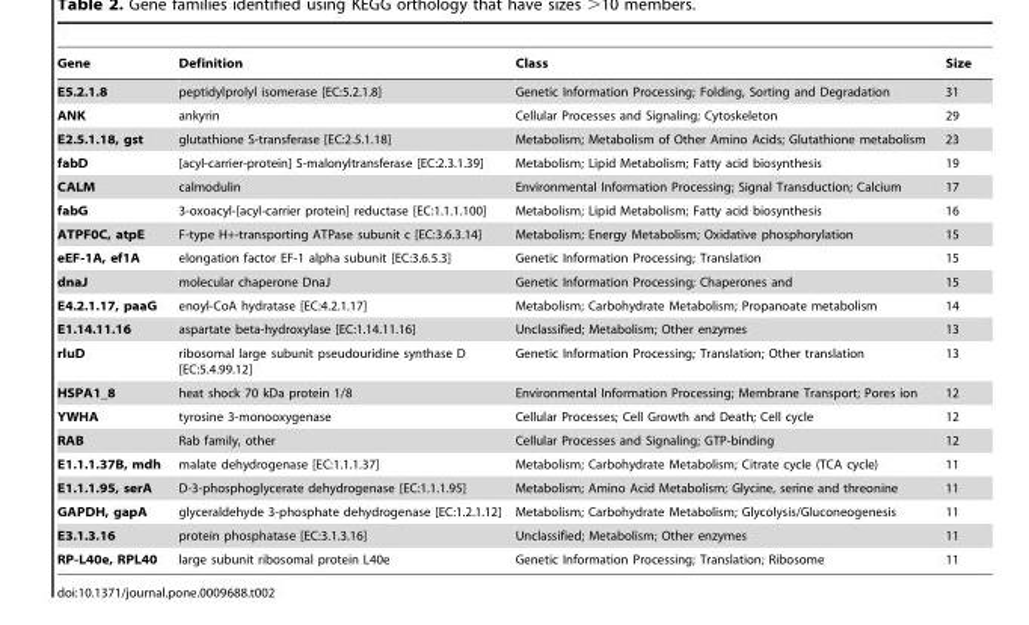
<table><thead><tr><td>Gene</td><td>Definition</td><td>Class</td><td>Size</td></tr></thead><tbody><tr><td>E5.2.1.8</td><td>peptidylprolyl isomerase [EC:5.2.1.8]</td><td>Genetic Information Processing; Folding, Sorting and Degradation</td><td>31</td></tr><tr><td>ANK</td><td>ankyrin</td><td>Cellular Processes and Signaling; Cytoskeleton</td><td>29</td></tr><tr><td>E2.5.1.18, gst</td><td>glutathione S-transferase [EC:2.5.1.18]</td><td>Metabolism; Metabolism of Other Amino Acids; Glutathione metabolism</td><td>23</td></tr><tr><td>fabD</td><td>[acyl-carrier-protein] S-malonyltransferase [EC:2.3.1.39]</td><td>Metabolism; Lipid Metabolism; Fatty acid biosynthesis</td><td>19</td></tr><tr><td>CALM</td><td>calmodulin</td><td>Environmental Information Processing; Signal Transduction; Calcium</td><td>17</td></tr><tr><td>fabG</td><td>3-oxoacyl-[acyl-carrier protein] reductase [EC:1.1.1.100]</td><td>Metabolism; Lipid Metabolism; Fatty acid biosynthesis</td><td>16</td></tr><tr><td>ATPF0C, atpE</td><td>F-type H+-transporting ATPase subunit c [EC:3.6.3.14]</td><td>Metabolism; Energy Metabolism; Oxidative phosphorylation</td><td>15</td></tr><tr><td>eEF-1A, ef1A</td><td>elongation factor EF-1 alpha subunit [EC:3.6.5.3]</td><td>Genetic Information Processing; Translation</td><td>15</td></tr><tr><td>dnaJ</td><td>molecular chaperone DnaJ</td><td>Genetic Information Processing; Chaperones and</td><td>15</td></tr><tr><td>E4.2.1.17, paaG</td><td>enoyl-CoA hydratase [EC:4.2.1.17]</td><td>Metabolism; Carbohydrate Metabolism; Propanoate metabolism</td><td>14</td></tr><tr><td>E1.14.11.16</td><td>aspartate beta-hydroxylase [EC:1.14.11.16]</td><td>Unclassified; Metabolism; Other enzymes</td><td>13</td></tr><tr><td>rluD</td><td>ribosomal large subunit pseudouridine synthase D [EC:5.4.99.12]</td><td>Genetic Information Processing; Translation; Other translation</td><td>13</td></tr><tr><td>HSPA1_8</td><td>heat shock 70 kDa protein 1/8</td><td>Environmental Information Processing; Membrane Transport; Pores ion</td><td>12</td></tr><tr><td>YWHA</td><td>tyrosine 3-monooxygenase</td><td>Cellular Processes; Cell Growth and Death; Cell cycle</td><td>12</td></tr><tr><td>RAB</td><td>Rab family, other</td><td>Cellular Processes and Signaling; GTP-binding</td><td>12</td></tr><tr><td>E1.1.1.37B, mdh</td><td>malate dehydrogenase [EC:1.1.1.37]</td><td>Metabolism; Carbohydrate Metabolism; Citrate cycle (TCA cycle)</td><td>11</td></tr><tr><td>E1.1.1.95, serA</td><td>D-3-phosphoglycerate dehydrogenase [EC:1.1.1.95]</td><td>Metabolism; Amino Acid Metabolism; Glycine, serine and threonine</td><td>11</td></tr><tr><td>GAPDH, gapA</td><td>glyceraldehyde 3-phosphate dehydrogenase [EC:1.2.1.12]</td><td>Metabolism; Carbohydrate Metabolism; Glycolysis/Gluconeogenesis</td><td>11</td></tr><tr><td>E3.1.3.16</td><td>protein phosphatase [EC:3.1.3.16]</td><td>Unclassified; Metabolism; Other enzymes</td><td>11</td></tr><tr><td>RP-L40e, RPL40</td><td>large subunit ribosomal protein L40e</td><td>Genetic Information Processing; Translation; Ribosome</td><td>11</td></tr></tbody></table>